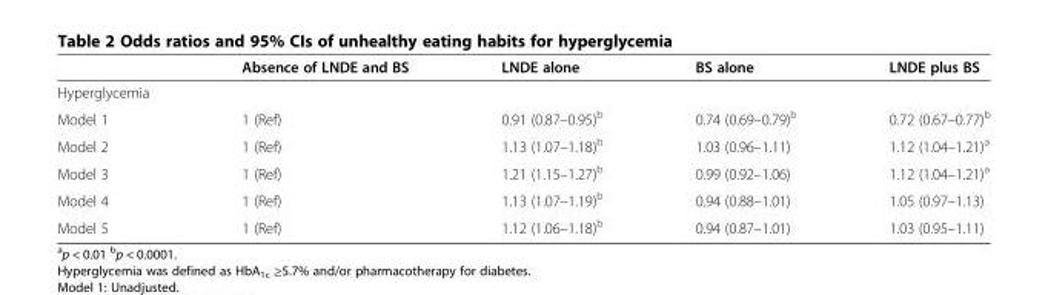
<table><thead><tr><td></td><td>Absence of LNDE and BS</td><td>LNDE alone</td><td>BS alone</td><td>LNDE plus BS</td></tr></thead><tbody><tr><td colspan="5">Hyperglycemia</td></tr><tr><td>Model 1</td><td>1 (Ref)</td><td>0.91 (0.87–0.95)<sup>b</sup></td><td>0.74 (0.69–0.79)<sup>b</sup></td><td>0.72 (0.67–0.77)<sup>b</sup></td></tr><tr><td>Model 2</td><td>1 (Ref)</td><td>1.13 (1.07–1.18)<sup>b</sup></td><td>1.03 (0.96–1.11)</td><td>1.12 (1.04–1.21)<sup>a</sup></td></tr><tr><td>Model 3</td><td>1 (Ref)</td><td>1.21 (1.15–1.27)<sup>b</sup></td><td>0.99 (0.92–1.06)</td><td>1.12 (1.04–1.21)<sup>a</sup></td></tr><tr><td>Model 4</td><td>1 (Ref)</td><td>1.13 (1.07–1.19)<sup>b</sup></td><td>0.94 (0.88–1.01)</td><td>1.05 (0.97–1.13)</td></tr><tr><td>Model 5</td><td>1 (Ref)</td><td>1.12 (1.06–1.18)<sup>b</sup></td><td>0.94 (0.87–1.01)</td><td>1.03 (0.95–1.11)</td></tr></tbody></table>